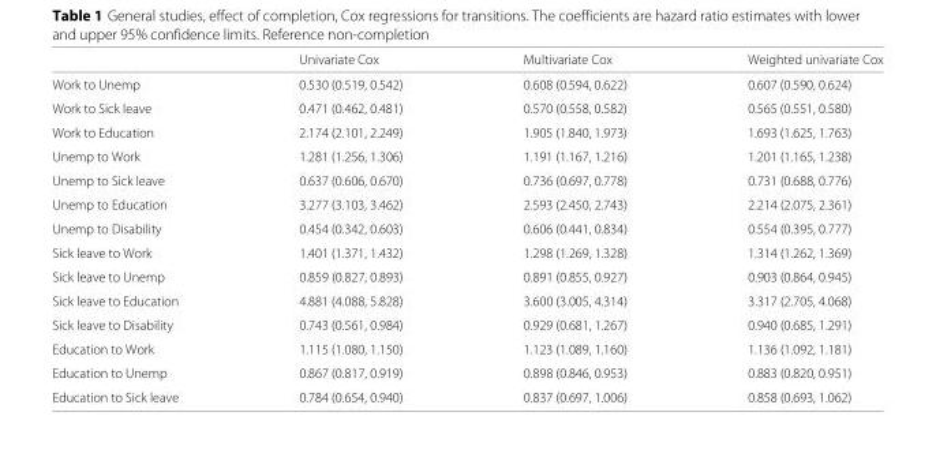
<table><thead><tr><td></td><td>Univariate Cox</td><td>Multivariate Cox</td><td>Weighted univariate Cox</td></tr></thead><tbody><tr><td>Work to Unemp</td><td>0.530 (0.519, 0.542)</td><td>0.608 (0.594, 0.622)</td><td>0.607 (0.590, 0.624)</td></tr><tr><td>Work to Sick leave</td><td>0.471 (0.462, 0.481)</td><td>0.570 (0.558, 0.582)</td><td>0.565 (0.551, 0.580)</td></tr><tr><td>Work to Education</td><td>2.174 (2.101, 2.249)</td><td>1.905 (1.840, 1.973)</td><td>1.693 (1.625, 1.763)</td></tr><tr><td>Unemp to Work</td><td>1.281 (1.256, 1.306)</td><td>1.191 (1.167, 1.216)</td><td>1.201 (1.165, 1.238)</td></tr><tr><td>Unemp to Sick leave</td><td>0.637 (0.606, 0.670)</td><td>0.736 (0.697, 0.778)</td><td>0.731 (0.688, 0.776)</td></tr><tr><td>Unemp to Education</td><td>3.277 (3.103, 3.462)</td><td>2.593 (2.450, 2.743)</td><td>2.214 (2.075, 2.361)</td></tr><tr><td>Unemp to Disability</td><td>0.454 (0.342, 0.603)</td><td>0.606 (0.441, 0.834)</td><td>0.554 (0.395, 0.777)</td></tr><tr><td>Sick leave to Work</td><td>1.401 (1.371, 1.432)</td><td>1.298 (1.269, 1.328)</td><td>1.314 (1.262, 1.369)</td></tr><tr><td>Sick leave to Unemp</td><td>0.859 (0.827, 0.893)</td><td>0.891 (0.855, 0.927)</td><td>0.903 (0.864, 0.945)</td></tr><tr><td>Sick leave to Education</td><td>4.881 (4.088, 5.828)</td><td>3.600 (3.005, 4.314)</td><td>3.317 (2.705, 4.068)</td></tr><tr><td>Sick leave to Disability</td><td>0.743 (0.561, 0.984)</td><td>0.929 (0.681, 1.267)</td><td>0.940 (0.685, 1.291)</td></tr><tr><td>Education to Work</td><td>1.115 (1.080, 1.150)</td><td>1.123 (1.089, 1.160)</td><td>1.136 (1.092, 1.181)</td></tr><tr><td>Education to Unemp</td><td>0.867 (0.817, 0.919)</td><td>0.898 (0.846, 0.953)</td><td>0.883 (0.820, 0.951)</td></tr><tr><td>Education to Sick leave</td><td>0.784 (0.654, 0.940)</td><td>0.837 (0.697, 1.006)</td><td>0.858 (0.693, 1.062)</td></tr></tbody></table>